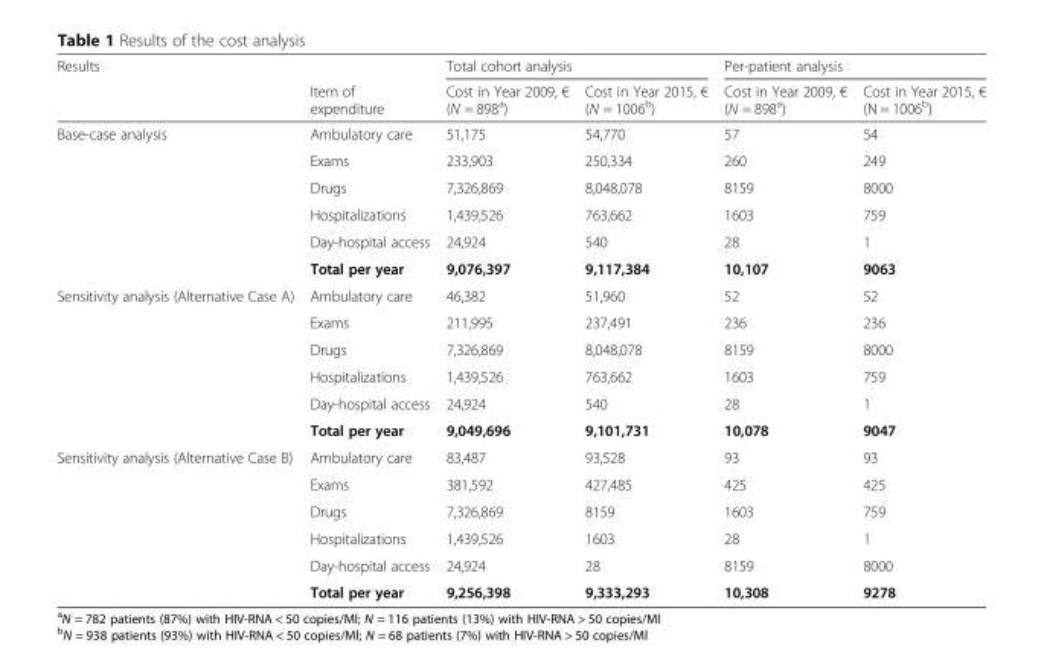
<table><thead><tr><td rowspan="2">Results</td><td rowspan="2">Item of expenditure</td><td colspan="2">Total cohort analysis</td><td colspan="2">Per-patient analysis</td></tr><tr><td>Cost in Year 2009, € (N = 898<sup>a</sup>)</td><td>Cost in Year 2015, € (N = 1006<sup>b</sup>)</td><td>Cost in Year 2009, € (N = 898<sup>a</sup>)</td><td>Cost in Year 2015, € (N = 1006<sup>b</sup>)</td></tr></thead><tbody><tr><td rowspan="6">Base-case analysis</td><td>Ambulatory care</td><td>51,175</td><td>54,770</td><td>57</td><td>54</td></tr><tr><td>Exams</td><td>233,903</td><td>250,334</td><td>260</td><td>249</td></tr><tr><td>Drugs</td><td>7,326,869</td><td>8,048,078</td><td>8159</td><td>8000</td></tr><tr><td>Hospitalizations</td><td>1,439,526</td><td>763,662</td><td>1603</td><td>759</td></tr><tr><td>Day-hospital access</td><td>24,924</td><td>540</td><td>28</td><td>1</td></tr><tr><td>Total per year</td><td>9,076,397</td><td>9,117,384</td><td>10,107</td><td>9063</td></tr><tr><td rowspan="6">Sensitivity analysis (Alternative Case A)</td><td>Ambulatory care</td><td>46,382</td><td>51,960</td><td>52</td><td>52</td></tr><tr><td>Exams</td><td>211,995</td><td>237,491</td><td>236</td><td>236</td></tr><tr><td>Drugs</td><td>7,326,869</td><td>8,048,078</td><td>8159</td><td>8000</td></tr><tr><td>Hospitalizations</td><td>1,439,526</td><td>763,662</td><td>1603</td><td>759</td></tr><tr><td>Day-hospital access</td><td>24,924</td><td>540</td><td>28</td><td>1</td></tr><tr><td>Total per year</td><td>9,049,696</td><td>9,101,731</td><td>10,078</td><td>9047</td></tr><tr><td rowspan="6">Sensitivity analysis (Alternative Case B)</td><td>Ambulatory care</td><td>83,487</td><td>93,528</td><td>93</td><td>93</td></tr><tr><td>Exams</td><td>381,592</td><td>427,485</td><td>425</td><td>425</td></tr><tr><td>Drugs</td><td>7,326,869</td><td>8159</td><td>1603</td><td>759</td></tr><tr><td>Hospitalizations</td><td>1,439,526</td><td>1603</td><td>28</td><td>1</td></tr><tr><td>Day-hospital access</td><td>24,924</td><td>28</td><td>8159</td><td>8000</td></tr><tr><td>Total per year</td><td>9,256,398</td><td>9,333,293</td><td>10,308</td><td>9278</td></tr></tbody></table>